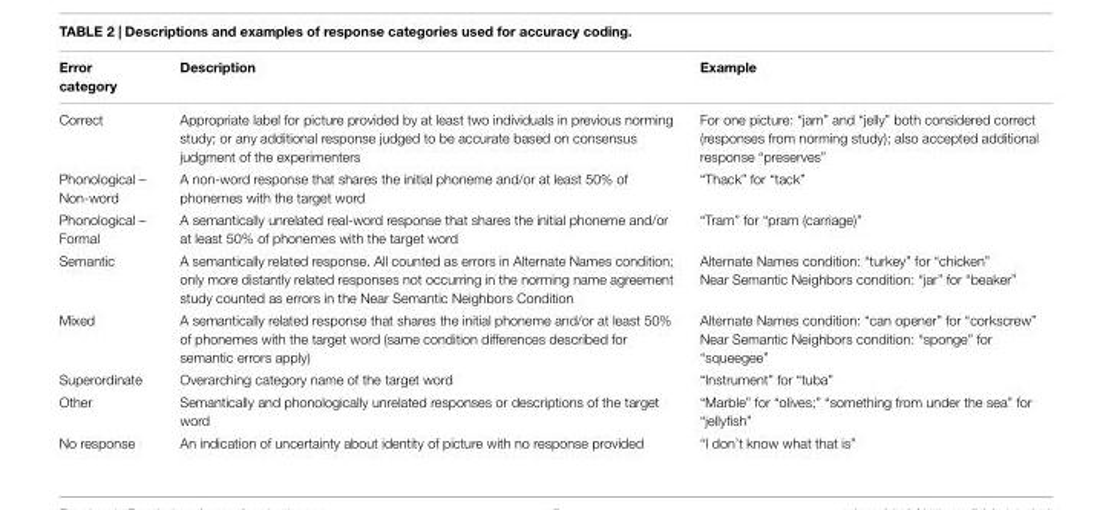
<table><thead><tr><td>Error category</td><td>Description</td><td>Example</td></tr></thead><tbody><tr><td>Correct</td><td>Appropriate label for picture provided by at least two individuals in previous norming study; or any additional response judged to be accurate based on consensus judgment of the experimenters</td><td>For one picture: “jam” and “jelly” both considered correct (responses from norming study); also accepted additional response “preserves”</td></tr><tr><td>Phonological – Non-word</td><td>A non-word response that shares the initial phoneme and/or at least 50% of phonemes with the target word</td><td>“Thack” for “tack”</td></tr><tr><td>Phonological – Formal</td><td>A semantically unrelated real-word response that shares the initial phoneme and/or at least 50% of phonemes with the target word</td><td>“Tram” for “pram (carriage)”</td></tr><tr><td>Semantic</td><td>A semantically related response. All counted as errors in Alternate Names condition; only more distantly related responses not occurring in the norming name agreement study counted as errors in the Near Semantic Neighbors Condition</td><td>Alternate Names condition: “turkey” for “chicken” Near Semantic Neighbors condition: “jar” for “beaker”</td></tr><tr><td>Mixed</td><td>A semantically related response that shares the initial phoneme and/or at least 50% of phonemes with the target word (same condition differences described for semantic errors apply)</td><td>Alternate Names condition: “can opener” for “corkscrew” Near Semantic Neighbors condition: “sponge” for “squeegee”</td></tr><tr><td>Superordinate</td><td>Overarching category name of the target word</td><td>“Instrument” for “tuba”</td></tr><tr><td>Other</td><td>Semantically and phonologically unrelated responses or descriptions of the target word</td><td>“Marble” for “olives;” “something from under the sea” for “jellyfish”</td></tr><tr><td>No response</td><td>An indication of uncertainty about identity of picture with no response provided</td><td>“I don’t know what that is”</td></tr></tbody></table>